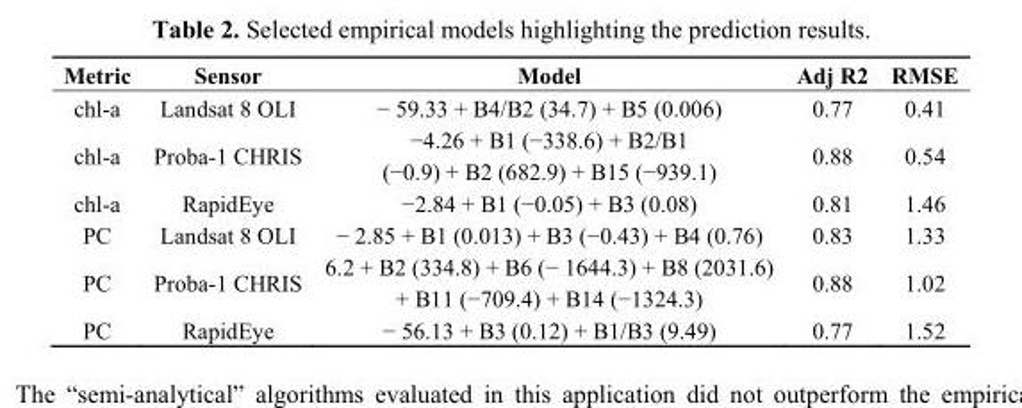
<table><thead><tr><td>Metric</td><td>Sensor</td><td>Model</td><td>Adj R2</td><td>RMSE</td></tr></thead><tbody><tr><td>chl-a</td><td>Landsat 8 OLI</td><td>− 59.33 + B4/B2 (34.7) + B5 (0.006)</td><td>0.77</td><td>0.41</td></tr><tr><td>chl-a</td><td>Proba-1 CHRIS</td><td>−4.26 + B1 (−338.6) + B2/B1 (−0.9) + B2 (682.9) + B15 (−939.1)</td><td>0.88</td><td>0.54</td></tr><tr><td>chl-a</td><td>RapidEye</td><td>−2.84 + B1 (−0.05) + B3 (0.08)</td><td>0.81</td><td>1.46</td></tr><tr><td>PC</td><td>Landsat 8 OLI</td><td>− 2.85 + B1 (0.013) + B3 (−0.43) + B4 (0.76)</td><td>0.83</td><td>1.33</td></tr><tr><td>PC</td><td>Proba-1 CHRIS</td><td>6.2 + B2 (334.8) + B6 (− 1644.3) + B8 (2031.6) + B11 (−709.4) + B14 (−1324.3)</td><td>0.88</td><td>1.02</td></tr><tr><td>PC</td><td>RapidEye</td><td>− 56.13 + B3 (0.12) + B1/B3 (9.49)</td><td>0.77</td><td>1.52</td></tr></tbody></table>